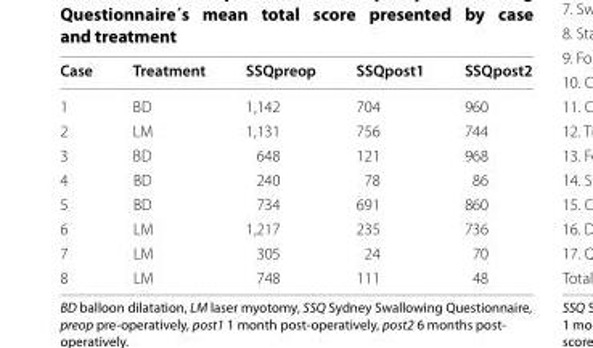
<table><thead><tr><td>Case</td><td>Treatment</td><td>SSQpreop</td><td>SSQpost1</td><td>SSQpost2</td></tr></thead><tbody><tr><td>1</td><td>BD</td><td>1,142</td><td>704</td><td>960</td></tr><tr><td>2</td><td>LM</td><td>1,131</td><td>756</td><td>744</td></tr><tr><td>3</td><td>BD</td><td>648</td><td>121</td><td>968</td></tr><tr><td>4</td><td>BD</td><td>240</td><td>78</td><td>86</td></tr><tr><td>5</td><td>BD</td><td>734</td><td>691</td><td>860</td></tr><tr><td>6</td><td>LM</td><td>1,217</td><td>235</td><td>736</td></tr><tr><td>7</td><td>LM</td><td>305</td><td>24</td><td>70</td></tr><tr><td>8</td><td>LM</td><td>748</td><td>111</td><td>48</td></tr></tbody></table>